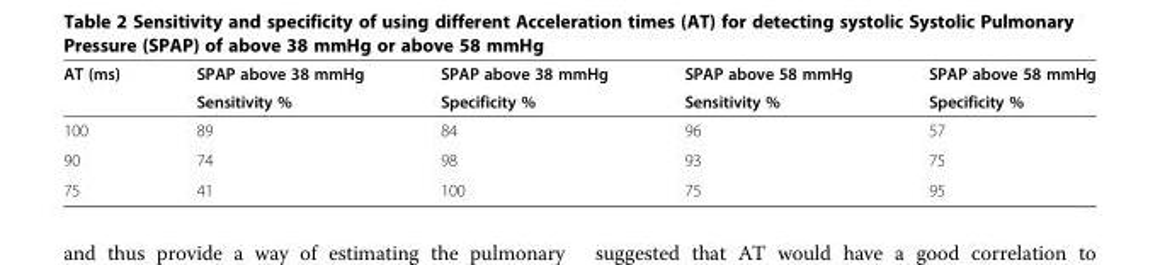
<table><thead><tr><td rowspan="2">AT (ms)</td><td rowspan="2">SPAP above 38 mmHg Sensitivity %</td><td rowspan="2">SPAP above 38 mmHg Specificity %</td><td rowspan="2">SPAP above 58 mmHg Sensitivity %</td><td rowspan="2">SPAP above 58 mmHg Specificity %</td></tr><tr></tr></thead><tbody><tr><td>100</td><td>89</td><td>84</td><td>96</td><td>57</td></tr><tr><td>90</td><td>74</td><td>98</td><td>93</td><td>75</td></tr><tr><td>75</td><td>41</td><td>100</td><td>75</td><td>95</td></tr></tbody></table>